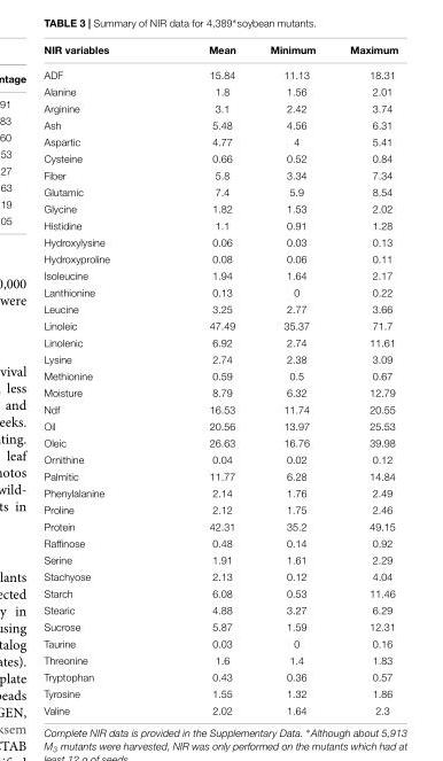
<table><thead><tr><td>NIR variables</td><td>Mean</td><td>Minimum</td><td>Maximum</td></tr></thead><tbody><tr><td>ADF</td><td>15.84</td><td>11.13</td><td>18.31</td></tr><tr><td>Alanine</td><td>1.8</td><td>1.56</td><td>2.01</td></tr><tr><td>Arginine</td><td>3.1</td><td>2.42</td><td>3.74</td></tr><tr><td>Ash</td><td>5.48</td><td>4.56</td><td>6.31</td></tr><tr><td>Aspartic</td><td>4.77</td><td>4</td><td>5.41</td></tr><tr><td>Cysteine</td><td>0.66</td><td>0.52</td><td>0.84</td></tr><tr><td>Fiber</td><td>5.8</td><td>3.34</td><td>7.34</td></tr><tr><td>Glutamic</td><td>7.4</td><td>5.9</td><td>8.54</td></tr><tr><td>Glycine</td><td>1.82</td><td>1.53</td><td>2.02</td></tr><tr><td>Histidine</td><td>1.1</td><td>0.91</td><td>1.28</td></tr><tr><td>Hydroxylysine</td><td>0.06</td><td>0.03</td><td>0.13</td></tr><tr><td>Hydroxyproline</td><td>0.08</td><td>0.06</td><td>0.11</td></tr><tr><td>Isoleucine</td><td>1.94</td><td>1.64</td><td>2.17</td></tr><tr><td>Lanthionine</td><td>0.13</td><td>0</td><td>0.22</td></tr><tr><td>Leucine</td><td>3.25</td><td>2.77</td><td>3.66</td></tr><tr><td>Linoleic</td><td>47.49</td><td>35.37</td><td>71.7</td></tr><tr><td>Linolenic</td><td>6.92</td><td>2.74</td><td>11.61</td></tr><tr><td>Lysine</td><td>2.74</td><td>2.38</td><td>3.09</td></tr><tr><td>Methionine</td><td>0.59</td><td>0.5</td><td>0.67</td></tr><tr><td>Moisture</td><td>8.79</td><td>6.32</td><td>12.79</td></tr><tr><td>Ndf</td><td>16.53</td><td>11.74</td><td>20.55</td></tr><tr><td>Oil</td><td>20.56</td><td>13.97</td><td>25.53</td></tr><tr><td>Oleic</td><td>26.63</td><td>16.76</td><td>39.98</td></tr><tr><td>Ornithine</td><td>0.04</td><td>0.02</td><td>0.12</td></tr><tr><td>Palmitic</td><td>11.77</td><td>6.28</td><td>14.84</td></tr><tr><td>Phenylalanine</td><td>2.14</td><td>1.76</td><td>2.49</td></tr><tr><td>Proline</td><td>2.12</td><td>1.75</td><td>2.46</td></tr><tr><td>Protein</td><td>42.31</td><td>35.2</td><td>49.15</td></tr><tr><td>Raffinose</td><td>0.48</td><td>0.14</td><td>0.92</td></tr><tr><td>Serine</td><td>1.91</td><td>1.61</td><td>2.29</td></tr><tr><td>Stachyose</td><td>2.13</td><td>0.12</td><td>4.04</td></tr><tr><td>Starch</td><td>6.08</td><td>0.53</td><td>11.46</td></tr><tr><td>Stearic</td><td>4.88</td><td>3.27</td><td>6.29</td></tr><tr><td>Sucrose</td><td>5.87</td><td>1.59</td><td>12.31</td></tr><tr><td>Taurine</td><td>0.03</td><td>0</td><td>0.16</td></tr><tr><td>Threonine</td><td>1.6</td><td>1.4</td><td>1.83</td></tr><tr><td>Tryptophan</td><td>0.43</td><td>0.36</td><td>0.57</td></tr><tr><td>Tyrosine</td><td>1.55</td><td>1.32</td><td>1.86</td></tr><tr><td>Valine</td><td>2.02</td><td>1.64</td><td>2.3</td></tr></tbody></table>